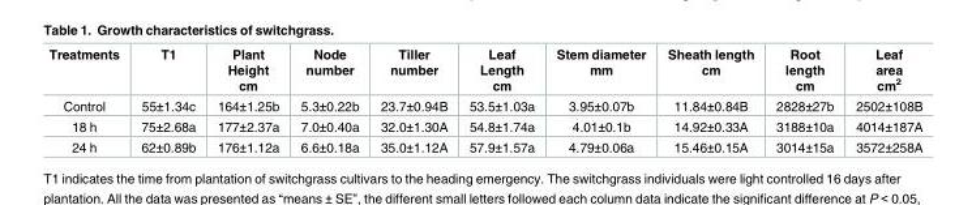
<table><thead><tr><td>Treatments</td><td>T1</td><td>Plant Height cm</td><td>Node number</td><td>Tiller number</td><td>Leaf Length cm</td><td>Stem diameter mm</td><td>Sheath length cm</td><td>Root length cm</td><td>Leaf area cm<sup>2</sup></td></tr></thead><tbody><tr><td>Control</td><td>55±1.34c</td><td>164±1.25b</td><td>5.3±0.22b</td><td>23.7±0.94B</td><td>53.5±1.03a</td><td>3.95±0.07b</td><td>11.84±0.84B</td><td>2828±27b</td><td>2502±108B</td></tr><tr><td>18 h</td><td>75±2.68a</td><td>177±2.37a</td><td>7.0±0.40a</td><td>32.0±1.30A</td><td>54.8±1.74a</td><td>4.01±0.1b</td><td>14.92±0.33A</td><td>3188±10a</td><td>4014±187A</td></tr><tr><td>24 h</td><td>62±0.89b</td><td>176±1.12a</td><td>6.6±0.18a</td><td>35.0±1.12A</td><td>57.9±1.57a</td><td>4.79±0.06a</td><td>15.46±0.15A</td><td>3014±15a</td><td>3572±258A</td></tr></tbody></table>